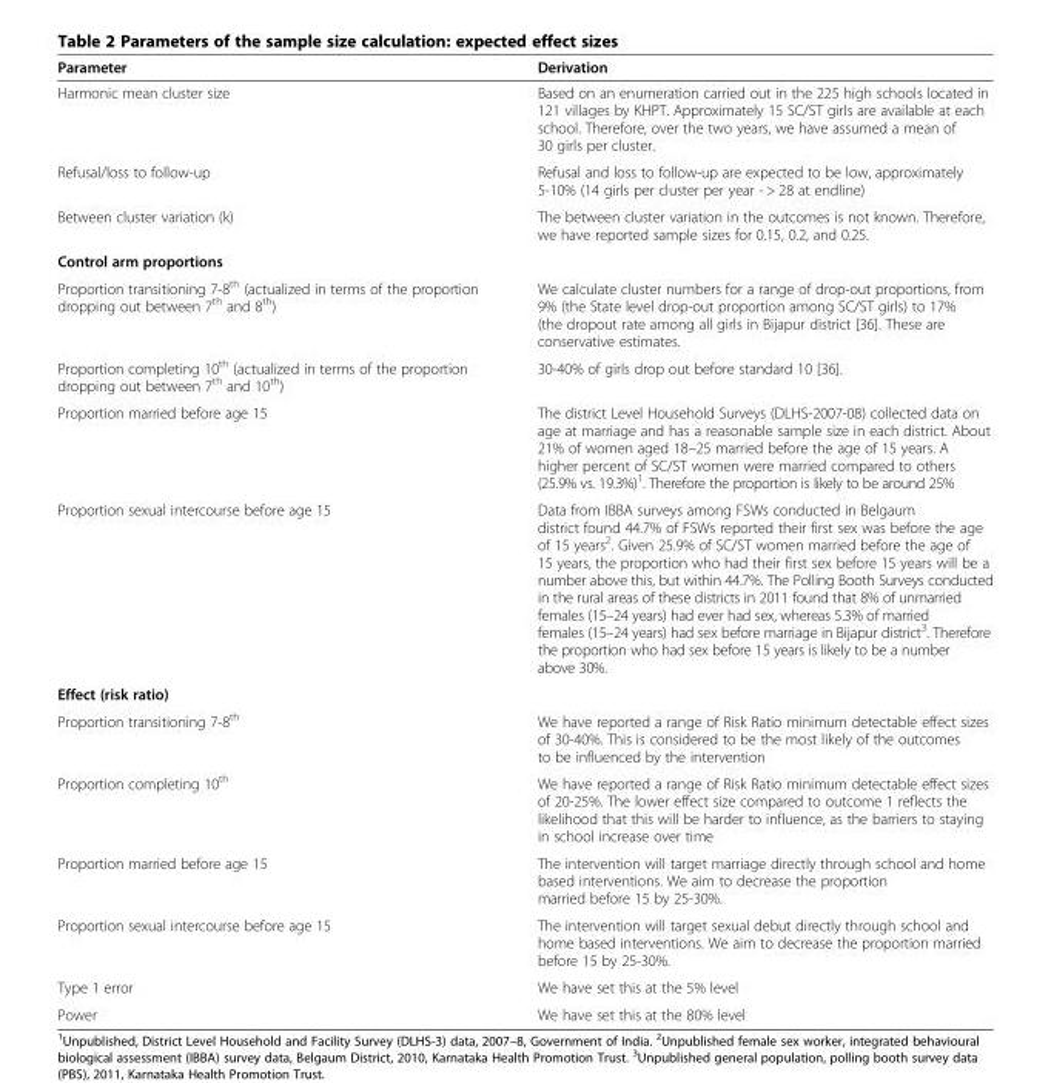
<table><thead><tr><td>Parameter</td><td>Derivation</td></tr></thead><tbody><tr><td>Harmonic mean cluster size</td><td>Based on an enumeration carried out in the 225 high schools located in 121 villages by KHPT. Approximately 15 SC/ST girls are available at each school. Therefore, over the two years, we have assumed a mean of 30 girls per cluster.</td></tr><tr><td>Refusal/loss to follow-up</td><td>Refusal and loss to follow-up are expected to be low, approximately 5-10% (14 girls per cluster per year - &gt; 28 at endline)</td></tr><tr><td>Between cluster variation (k)</td><td>The between cluster variation in the outcomes is not known. Therefore, we have reported sample sizes for 0.15, 0.2, and 0.25.</td></tr><tr><td colspan="2">Control arm proportions</td></tr><tr><td>Proportion transitioning 7-8<sup>th</sup> (actualized in terms of the proportion dropping out between 7<sup>th</sup> and 8<sup>th</sup>)</td><td>We calculate cluster numbers for a range of drop-out proportions, from 9% (the State level drop-out proportion among SC/ST girls) to 17% (the dropout rate among all girls in Bijapur district [36]. These are conservative estimates.</td></tr><tr><td>Proportion completing 10<sup>th</sup> (actualized in terms of the proportion dropping out between 7<sup>th</sup> and 10<sup>th</sup>)</td><td>30-40% of girls drop out before standard 10 [36].</td></tr><tr><td>Proportion married before age 15</td><td>The district Level Household Surveys (DLHS-2007-08) collected data on age at marriage and has a reasonable sample size in each district. About 21% of women aged 18–25 married before the age of 15 years. A higher percent of SC/ST women were married compared to others (25.9% vs. 19.3%)<sup>1</sup>. Therefore the proportion is likely to be around 25%</td></tr><tr><td>Proportion sexual intercourse before age 15</td><td>Data from IBBA surveys among FSWs conducted in Belgaum district found 44.7% of FSWs reported their first sex was before the age of 15 years<sup>2</sup>. Given 25.9% of SC/ST women married before the age of 15 years, the proportion who had their first sex before 15 years will be a number above this, but within 44.7%. The Polling Booth Surveys conducted in the rural areas of these districts in 2011 found that 8% of unmarried females (15–24 years) had ever had sex, whereas 5.3% of married females (15–24 years) had sex before marriage in Bijapur district<sup>3</sup>. Therefore the proportion who had sex before 15 years is likely to be a number above 30%.</td></tr><tr><td colspan="2">Effect (risk ratio)</td></tr><tr><td>Proportion transitioning 7-8<sup>th</sup></td><td>We have reported a range of Risk Ratio minimum detectable effect sizes of 30-40%. This is considered to be the most likely of the outcomes to be influenced by the intervention</td></tr><tr><td>Proportion completing 10<sup>th</sup></td><td>We have reported a range of Risk Ratio minimum detectable effect sizes of 20-25%. The lower effect size compared to outcome 1 reflects the likelihood that this will be harder to influence, as the barriers to staying in school increase over time</td></tr><tr><td>Proportion married before age 15</td><td>The intervention will target marriage directly through school and home based interventions. We aim to decrease the proportion married before 15 by 25-30%.</td></tr><tr><td>Proportion sexual intercourse before age 15</td><td>The intervention will target sexual debut directly through school and home based interventions. We aim to decrease the proportion married before 15 by 25-30%.</td></tr><tr><td>Type 1 error</td><td>We have set this at the 5% level</td></tr><tr><td>Power</td><td>We have set this at the 80% level</td></tr></tbody></table>